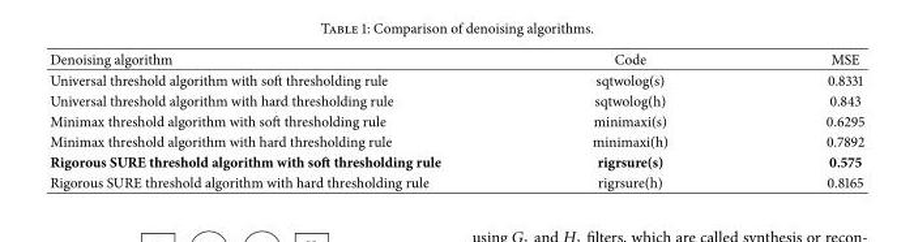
<table><thead><tr><td>Denoising algorithm</td><td>Code</td><td>MSE</td></tr></thead><tbody><tr><td>Universal threshold algorithm with soft thresholding rule</td><td>sqtwolog(s)</td><td>0.8331</td></tr><tr><td>Universal threshold algorithm with hard thresholding rule</td><td>sqtwolog(h)</td><td>0.843</td></tr><tr><td>Minimax threshold algorithm with soft thresholding rule</td><td>minimaxi(s)</td><td>0.6295</td></tr><tr><td>Minimax threshold algorithm with hard thresholding rule</td><td>minimaxi(h)</td><td>0.7892</td></tr><tr><td>Rigorous SURE threshold algorithm with soft thresholding rule</td><td>rigrsure(s)</td><td>0.575</td></tr><tr><td>Rigorous SURE threshold algorithm with hard thresholding rule</td><td>rigrsure(h)</td><td>0.8165</td></tr></tbody></table>